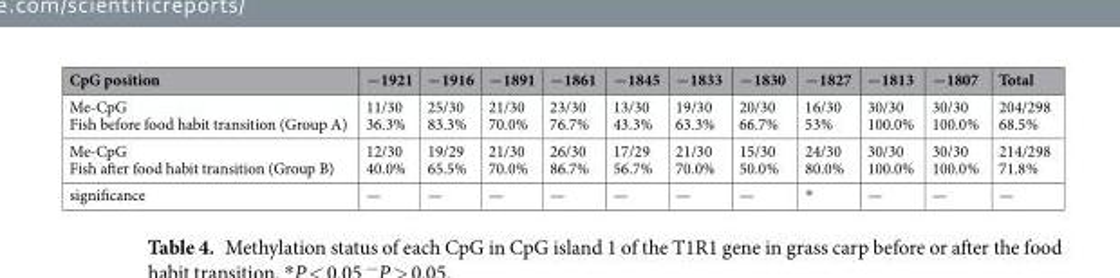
<table><thead><tr><td>CpG position</td><td>−1921</td><td>−1916</td><td>−1891</td><td>−1861</td><td>−1845</td><td>−1833</td><td>−1830</td><td>−1827</td><td>−1813</td><td>−1807</td><td>Total</td></tr></thead><tbody><tr><td>Me-CpG Fish before food habit transition (Group A)</td><td>11/30 36.3%</td><td>25/30 83.3%</td><td>21/30 70.0%</td><td>23/30 76.7%</td><td>13/30 43.3%</td><td>19/30 63.3%</td><td>20/30 66.7%</td><td>16/30 53%</td><td>30/30 100.0%</td><td>30/30 100.0%</td><td>204/298 68.5%</td></tr><tr><td>Me-CpG Fish after food habit transition (Group B)</td><td>12/30 40.0%</td><td>19/29 65.5%</td><td>21/30 70.0%</td><td>26/30 86.7%</td><td>17/29 56.7%</td><td>21/30 70.0%</td><td>15/30 50.0%</td><td>24/30 80.0%</td><td>30/30 100.0%</td><td>30/30 100.0%</td><td>214/298 71.8%</td></tr><tr><td>significance</td><td>—</td><td>—</td><td>—</td><td>—</td><td>—</td><td>—</td><td>—</td><td>*</td><td>—</td><td>—</td><td>—</td></tr></tbody></table>